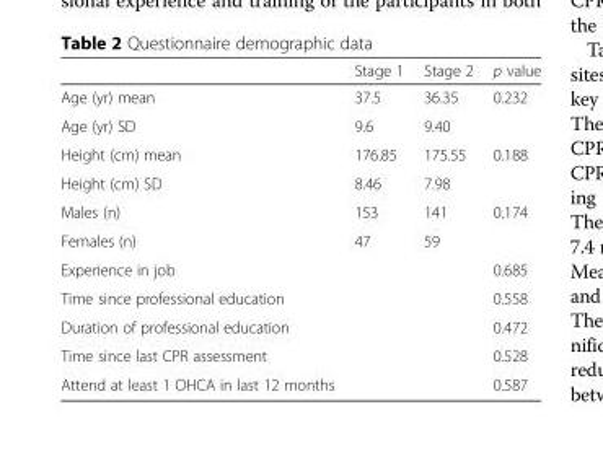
<table><thead><tr><td></td><td>Stage 1</td><td>Stage 2</td><td>p value</td></tr></thead><tbody><tr><td>Age (yr) mean</td><td>37.5</td><td>36.35</td><td>0.232</td></tr><tr><td>Age (yr) SD</td><td>9.6</td><td>9.40</td><td></td></tr><tr><td>Height (cm) mean</td><td>176.85</td><td>175.55</td><td>0.188</td></tr><tr><td>Height (cm) SD</td><td>8.46</td><td>7.98</td><td></td></tr><tr><td>Males (n)</td><td>153</td><td>141</td><td>0.174</td></tr><tr><td>Females (n)</td><td>47</td><td>59</td><td></td></tr><tr><td>Experience in job</td><td></td><td></td><td>0.685</td></tr><tr><td>Time since professional education</td><td></td><td></td><td>0.558</td></tr><tr><td>Duration of professional education</td><td></td><td></td><td>0.472</td></tr><tr><td>Time since last CPR assessment</td><td></td><td></td><td>0.528</td></tr><tr><td>Attend at least 1 OHCA in last 12 months</td><td></td><td></td><td>0.587</td></tr></tbody></table>